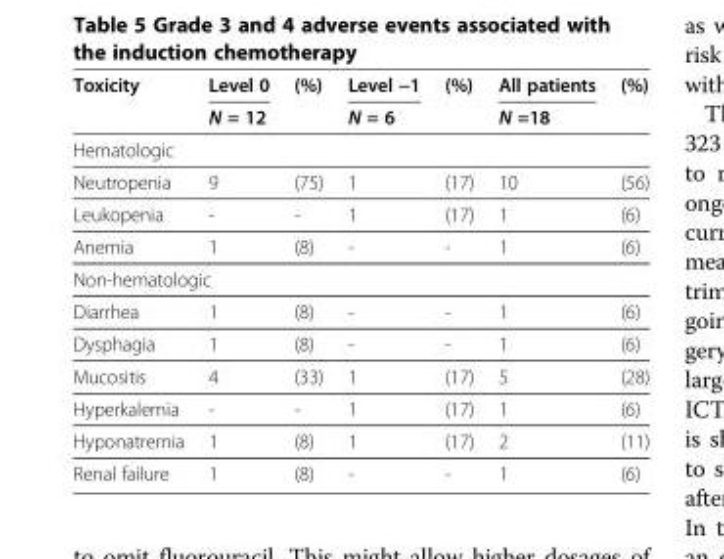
<table><thead><tr><td rowspan="2">Toxicity</td><td rowspan="2">Level 0 N = 12</td><td rowspan="2">(%)</td><td rowspan="2">Level −1 N = 6</td><td rowspan="2">(%)</td><td rowspan="2">All patients N =18</td><td rowspan="2">(%)</td></tr><tr></tr></thead><tbody><tr><td colspan="7">Hematologic</td></tr><tr><td>Neutropenia</td><td>9</td><td>(75)</td><td>1</td><td>(17)</td><td>10</td><td>(56)</td></tr><tr><td>Leukopenia</td><td>-</td><td>-</td><td>1</td><td>(17)</td><td>1</td><td>(6)</td></tr><tr><td>Anemia</td><td>1</td><td>(8)</td><td>-</td><td>-</td><td>1</td><td>(6)</td></tr><tr><td colspan="7">Non-hematologic</td></tr><tr><td>Diarrhea</td><td>1</td><td>(8)</td><td>-</td><td>-</td><td>1</td><td>(6)</td></tr><tr><td>Dysphagia</td><td>1</td><td>(8)</td><td>-</td><td>-</td><td>1</td><td>(6)</td></tr><tr><td>Mucositis</td><td>4</td><td>(33)</td><td>1</td><td>(17)</td><td>5</td><td>(28)</td></tr><tr><td>Hyperkalemia</td><td>-</td><td>-</td><td>1</td><td>(17)</td><td>1</td><td>(6)</td></tr><tr><td>Hyponatremia</td><td>1</td><td>(8)</td><td>1</td><td>(17)</td><td>2</td><td>(11)</td></tr><tr><td>Renal failure</td><td>1</td><td>(8)</td><td>-</td><td>-</td><td>1</td><td>(6)</td></tr></tbody></table>